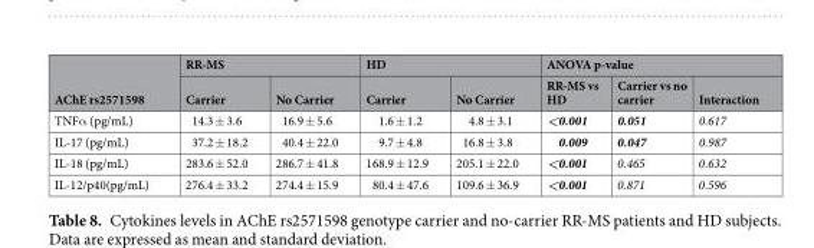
<table><thead><tr><td rowspan="2">AChE rs2571598</td><td colspan="2">RR-MS</td><td colspan="2">HD</td><td colspan="3">ANOVA p-value</td></tr><tr><td>Carrier</td><td>No Carrier</td><td>Carrier</td><td>No Carrier</td><td>RR-MS vs HD</td><td>Carrier vs no carrier</td><td>Interaction</td></tr></thead><tbody><tr><td>TNFα (pg/mL)</td><td>14.3 ± 3.6</td><td>16.9 ± 5.6</td><td>1.6 ± 1.2</td><td>4.8 ± 3.1</td><td>&lt;0.001</td><td>0.051</td><td>0.617</td></tr><tr><td>IL-17 (pg/mL)</td><td>37.2 ± 18.2</td><td>40.4 ± 22.0</td><td>9.7 ± 4.8</td><td>16.8 ± 3.8</td><td>0.009</td><td>0.047</td><td>0.987</td></tr><tr><td>IL-18 (pg/mL)</td><td>283.6 ± 52.0</td><td>286.7 ± 41.8</td><td>168.9 ± 12.9</td><td>205.1 ± 22.0</td><td>&lt;0.001</td><td>0.465</td><td>0.632</td></tr><tr><td>IL-12/p40(pg/mL)</td><td>276.4 ± 33.2</td><td>274.4 ± 15.9</td><td>80.4 ± 47.6</td><td>109.6 ± 36.9</td><td>&lt;0.001</td><td>0.871</td><td>0.596</td></tr></tbody></table>